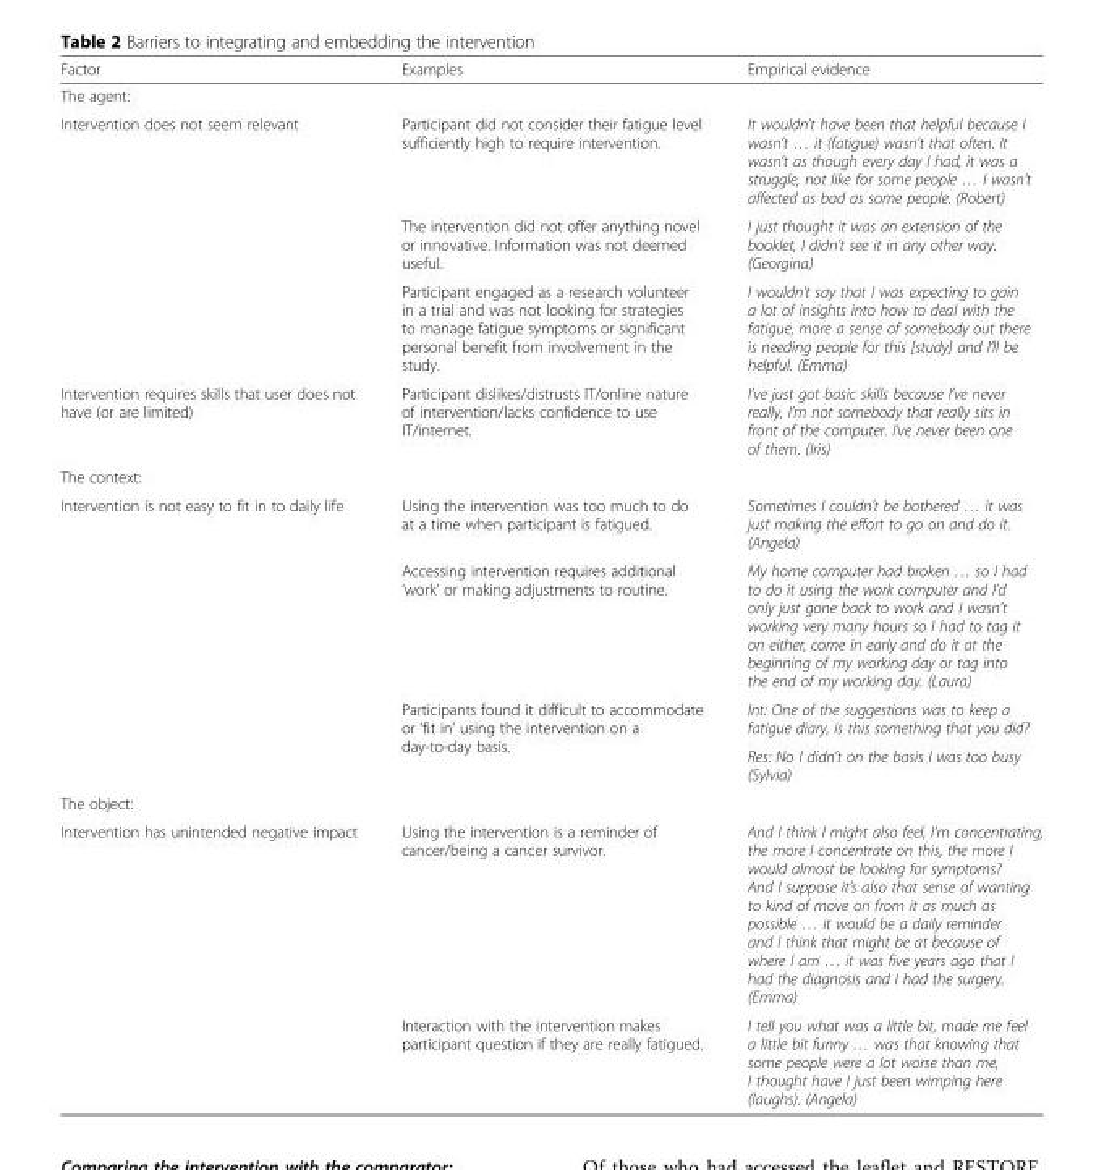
<table><thead><tr><td>Factor</td><td>Examples</td><td>Empirical evidence</td></tr></thead><tbody><tr><td colspan="3">The agent:</td></tr><tr><td rowspan="3">Intervention does not seem relevant</td><td>Participant did not consider their fatigue level sufficiently high to require intervention.</td><td>It wouldn’t have been that helpful because I wasn’t … it (fatigue) wasn’t that often. It wasn’t as though every day I had, it was a struggle, not like for some people … I wasn’t affected as bad as some people. (Robert)</td></tr><tr><td>The intervention did not offer anything novel or innovative. Information was not deemed useful.</td><td>I just thought it was an extension of the booklet, I didn’t see it in any other way. (Georgina)</td></tr><tr><td>Participant engaged as a research volunteer in a trial and was not looking for strategies to manage fatigue symptoms or significant personal benefit from involvement in the study.</td><td>I wouldn’t say that I was expecting to gain a lot of insights into how to deal with the fatigue, more a sense of somebody out there is needing people for this [study] and I’ll be helpful. (Emma)</td></tr><tr><td>Intervention requires skills that user does not have (or are limited)</td><td>Participant dislikes/distrusts IT/online nature of intervention/lacks confidence to use IT/internet.</td><td>I’ve just got basic skills because I’ve never really, I’m not somebody that really sits in front of the computer. I’ve never been one of them. (Iris)</td></tr><tr><td colspan="3">The context:</td></tr><tr><td rowspan="4">Intervention is not easy to fit in to daily life</td><td>Using the intervention was too much to do at a time when participant is fatigued.</td><td>Sometimes I couldn’t be bothered … it was just making the effort to go on and do it. (Angela)</td></tr><tr><td>Accessing intervention requires additional ‘work’ or making adjustments to routine.</td><td>My home computer had broken … so I had to do it using the work computer and I’d only just gone back to work and I wasn’t working very many hours so I had to tag it on either, come in early and do it at the beginning of my working day or tag into the end of my working day. (Laura)</td></tr><tr><td rowspan="2">Participants found it difficult to accommodate or ‘fit in’ using the intervention on a day-to-day basis.</td><td>Int: One of the suggestions was to keep a fatigue diary, is this something that you did?</td></tr><tr><td>Res: No I didn’t on the basis I was too busy (Sylvia)</td></tr><tr><td colspan="3">The object:</td></tr><tr><td rowspan="2">Intervention has unintended negative impact</td><td>Using the intervention is a reminder of cancer/being a cancer survivor.</td><td>And I think I might also feel, I’m concentrating, the more I concentrate on this, the more I would almost be looking for symptoms? And I suppose it’s also that sense of wanting to kind of move on from it as much as possible … it would be a daily reminder and I think that might be at because of where I am … it was five years ago that I had the diagnosis and I had the surgery. (Emma)</td></tr><tr><td>Interaction with the intervention makes participant question if they are really fatigued.</td><td>I tell you what was a little bit, made me feel a little bit funny … was that knowing that some people were a lot worse than me, I thought have I just been wimping here (laughs). (Angela)</td></tr></tbody></table>